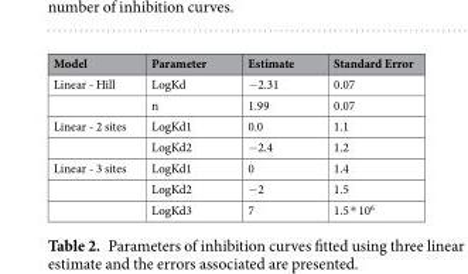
<table><thead><tr><td>Model</td><td>Parameter</td><td>Estimate</td><td>Standard Error</td></tr></thead><tbody><tr><td rowspan="2">Linear - Hill</td><td>LogKd</td><td>−2.31</td><td>0.07</td></tr><tr><td>n</td><td>1.99</td><td>0.07</td></tr><tr><td rowspan="2">Linear - 2 sites</td><td>LogKd1</td><td>0.0</td><td>1.1</td></tr><tr><td>LogKd2</td><td>−2.4</td><td>1.2</td></tr><tr><td rowspan="3">Linear - 3 sites</td><td>LogKd1</td><td>0</td><td>1.4</td></tr><tr><td>LogKd2</td><td>−2</td><td>1.5</td></tr><tr><td>LogKd3</td><td>7</td><td>1.5 * 10<sup>6</sup></td></tr></tbody></table>